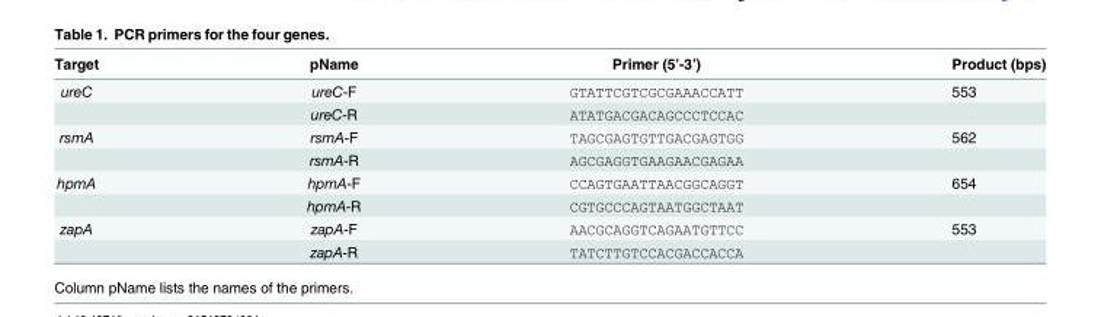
<table><thead><tr><td>Target</td><td>pName</td><td>Primer (5’-3’)</td><td>Product (bps)</td></tr></thead><tbody><tr><td rowspan="2">ureC</td><td>ureC-F</td><td>GTATTCGTCGCGAAACCATT</td><td>553</td></tr><tr><td>ureC-R</td><td>ATATGACGACAGCCCTCCAC</td><td></td></tr><tr><td rowspan="2">rsmA</td><td>rsmA-F</td><td>TAGCGAGTGTTGACGAGTGG</td><td>562</td></tr><tr><td>rsmA-R</td><td>AGCGAGGTGAAGAACGAGAA</td><td></td></tr><tr><td rowspan="2">hpmA</td><td>hpmA-F</td><td>CCAGTGAATTAACGGCAGGT</td><td>654</td></tr><tr><td>hpmA-R</td><td>CGTGCCCAGTAATGGCTAAT</td><td></td></tr><tr><td rowspan="2">zapA</td><td>zapA-F</td><td>AACGCAGGTCAGAATGTTCC</td><td>553</td></tr><tr><td>zapA-R</td><td>TATCTTGTCCACGACCACCA</td><td></td></tr></tbody></table>